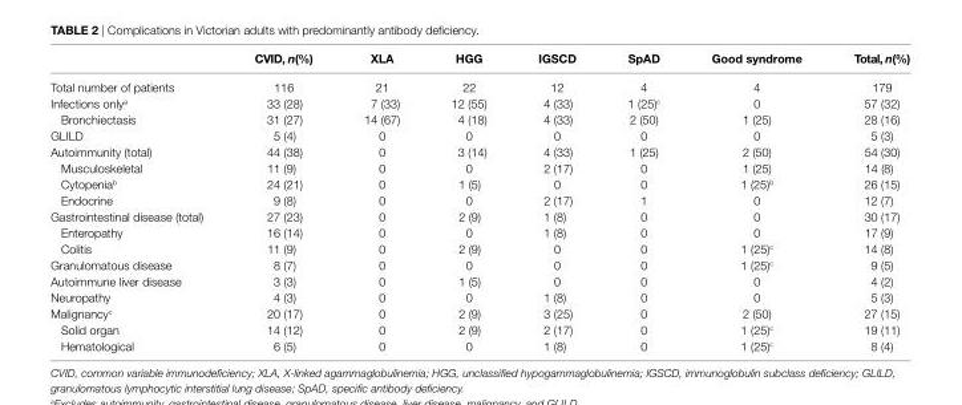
<table><thead><tr><td></td><td>cViD, n(%)</td><td>Xla</td><td>hgg</td><td>igscD</td><td>spaD</td><td>good syndrome</td><td>Total, n(%)</td></tr></thead><tbody><tr><td>Total number of patients</td><td>116</td><td>21</td><td>22</td><td>12</td><td>4</td><td>4</td><td>179</td></tr><tr><td>Infections only<sup>a</sup></td><td>33 (28)</td><td>7 (33)</td><td>12 (55)</td><td>4 (33)</td><td>1 (25)<sup>c</sup></td><td>0</td><td>57 (32)</td></tr><tr><td>Bronchiectasis</td><td>31 (27)</td><td>14 (67)</td><td>4 (18)</td><td>4 (33)</td><td>2 (50)</td><td>1 (25)</td><td>28 (16)</td></tr><tr><td>GLILD</td><td>5 (4)</td><td>0</td><td>0</td><td>0</td><td>0</td><td>0</td><td>5 (3)</td></tr><tr><td>Autoimmunity (total)</td><td>44 (38)</td><td>0</td><td>3 (14)</td><td>4 (33)</td><td>1 (25)</td><td>2 (50)</td><td>54 (30)</td></tr><tr><td>Musculoskeletal</td><td>11 (9)</td><td>0</td><td>0</td><td>2 (17)</td><td>0</td><td>1 (25)</td><td>14 (8)</td></tr><tr><td>Cytopenia<sup>b</sup></td><td>24 (21)</td><td>0</td><td>1 (5)</td><td>0</td><td>0</td><td>1 (25)<sup>b</sup></td><td>26 (15)</td></tr><tr><td>Endocrine</td><td>9 (8)</td><td>0</td><td>0</td><td>2 (17)</td><td>1</td><td>0</td><td>12 (7)</td></tr><tr><td>Gastrointestinal disease (total)</td><td>27 (23)</td><td>0</td><td>2 (9)</td><td>1 (8)</td><td>0</td><td>0</td><td>30 (17)</td></tr><tr><td>Enteropathy</td><td>16 (14)</td><td>0</td><td>0</td><td>1 (8)</td><td>0</td><td>0</td><td>17 (9)</td></tr><tr><td>Colitis</td><td>11 (9)</td><td>0</td><td>2 (9)</td><td>0</td><td>0</td><td>1 (25)<sup>c</sup></td><td>14 (8)</td></tr><tr><td>Granulomatous disease</td><td>8 (7)</td><td>0</td><td>0</td><td>0</td><td>0</td><td>1 (25)<sup>c</sup></td><td>9 (5)</td></tr><tr><td>Autoimmune liver disease</td><td>3 (3)</td><td>0</td><td>1 (5)</td><td>0</td><td>0</td><td>0</td><td>4 (2)</td></tr><tr><td>Neuropathy</td><td>4 (3)</td><td>0</td><td>0</td><td>1 (8)</td><td>0</td><td>0</td><td>5 (3)</td></tr><tr><td>Malignancy<sup>c</sup></td><td>20 (17)</td><td>0</td><td>2 (9)</td><td>3 (25)</td><td>0</td><td>2 (50)</td><td>27 (15)</td></tr><tr><td>Solid organ</td><td>14 (12)</td><td>0</td><td>2 (9)</td><td>2 (17)</td><td>0</td><td>1 (25)<sup>c</sup></td><td>19 (11)</td></tr><tr><td>Hematological</td><td>6 (5)</td><td>0</td><td>0</td><td>1 (8)</td><td>0</td><td>1 (25)<sup>c</sup></td><td>8 (4)</td></tr></tbody></table>